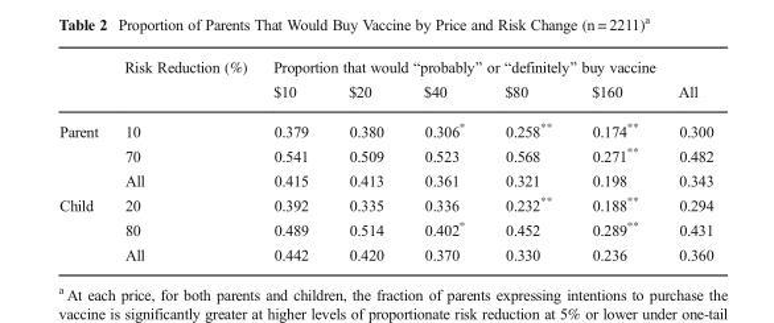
<table><thead><tr><td rowspan="2"></td><td rowspan="2">Risk Reduction (%)</td><td colspan="6">Proportion that would “probably” or “definitely” buy vaccine</td></tr><tr><td>$10</td><td>$20</td><td>$40</td><td>$80</td><td>$160</td><td>All</td></tr></thead><tbody><tr><td rowspan="3">Parent</td><td>10</td><td>0.379</td><td>0.380</td><td>0.306*</td><td>0.258**</td><td>0.174**</td><td>0.300</td></tr><tr><td>70</td><td>0.541</td><td>0.509</td><td>0.523</td><td>0.568</td><td>0.271**</td><td>0.482</td></tr><tr><td>All</td><td>0.415</td><td>0.413</td><td>0.361</td><td>0.321</td><td>0.198</td><td>0.343</td></tr><tr><td rowspan="3">Child</td><td>20</td><td>0.392</td><td>0.335</td><td>0.336</td><td>0.232**</td><td>0.188**</td><td>0.294</td></tr><tr><td>80</td><td>0.489</td><td>0.514</td><td>0.402*</td><td>0.452</td><td>0.289**</td><td>0.431</td></tr><tr><td>All</td><td>0.442</td><td>0.420</td><td>0.370</td><td>0.330</td><td>0.236</td><td>0.360</td></tr></tbody></table>